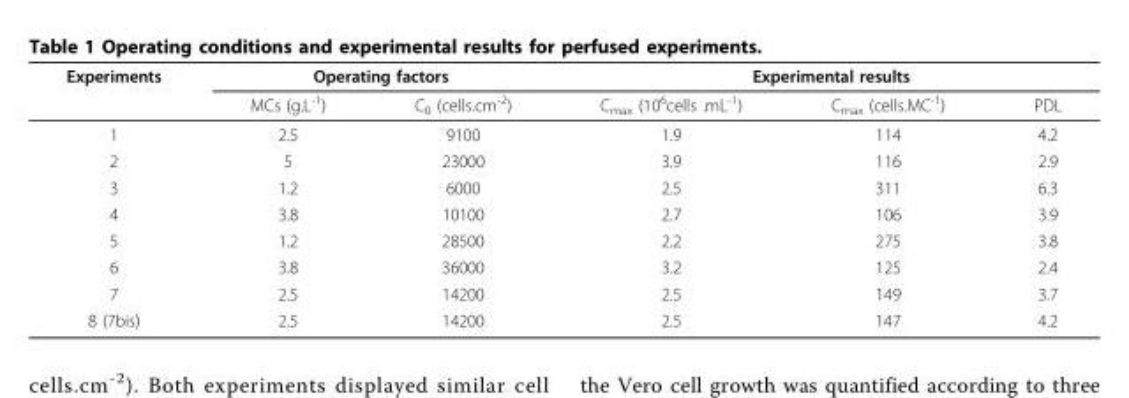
<table><thead><tr><td rowspan="2">Experiments</td><td colspan="2">Operating factors</td><td colspan="3">Experimental results</td></tr><tr><td>MCs (g.L<sup>-1</sup>)</td><td>C<sub>0</sub> (cells.cm<sup>-2</sup>)</td><td>C<sub>max</sub> (10<sup>6</sup>cells .mL<sup>-1</sup>)</td><td>C<sub>max</sub> (cells.MC<sup>-1</sup>)</td><td>PDL</td></tr></thead><tbody><tr><td>1</td><td>2.5</td><td>9100</td><td>1.9</td><td>114</td><td>4.2</td></tr><tr><td>2</td><td>5</td><td>23000</td><td>3.9</td><td>116</td><td>2.9</td></tr><tr><td>3</td><td>1.2</td><td>6000</td><td>2.5</td><td>311</td><td>6.3</td></tr><tr><td>4</td><td>3.8</td><td>10100</td><td>2.7</td><td>106</td><td>3.9</td></tr><tr><td>5</td><td>1.2</td><td>28500</td><td>2.2</td><td>275</td><td>3.8</td></tr><tr><td>6</td><td>3.8</td><td>36000</td><td>3.2</td><td>125</td><td>2.4</td></tr><tr><td>7</td><td>2.5</td><td>14200</td><td>2.5</td><td>149</td><td>3.7</td></tr><tr><td>8 (7bis)</td><td>2.5</td><td>14200</td><td>2.5</td><td>147</td><td>4.2</td></tr></tbody></table>